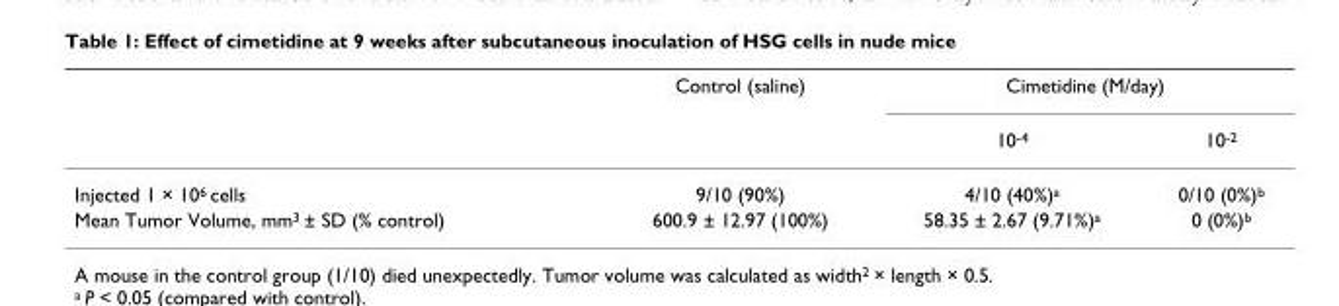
<table><thead><tr><td rowspan="2"></td><td rowspan="2">Control (saline)</td><td colspan="2">Cimetidine (M/day)</td></tr><tr><td>10<sup>-4</sup></td><td>10<sup>-2</sup></td></tr></thead><tbody><tr><td>Injected 1 × 10<sup>6</sup> cells</td><td>9/10 (90%)</td><td>4/10 (40%)<sup>a</sup></td><td>0/10 (0%)<sup>b</sup></td></tr><tr><td>Mean Tumor Volume, mm<sup>3</sup> ± SD (% control)</td><td>600.9 ± 12.97 (100%)</td><td>58.35 ± 2.67 (9.71%)<sup>a</sup></td><td>0 (0%)<sup>b</sup></td></tr></tbody></table>